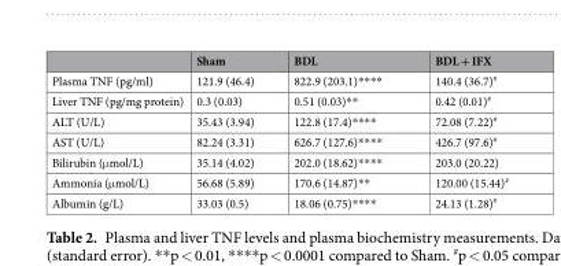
<table><thead><tr><td></td><td>Sham</td><td>BDL</td><td>BDL + IFX</td></tr></thead><tbody><tr><td>Plasma TNF (pg/ml)</td><td>121.9 (46.4)</td><td>822.9 (203.1)****</td><td>140.4 (36.7)<sup>#</sup></td></tr><tr><td>Liver TNF (pg/mg protein)</td><td>0.3 (0.03)</td><td>0.51 (0.03)**</td><td>0.42 (0.01)<sup>#</sup></td></tr><tr><td>ALT (U/L)</td><td>35.43 (3.94)</td><td>122.8 (17.4)****</td><td>72.08 (7.22)<sup>#</sup></td></tr><tr><td>AST (U/L)</td><td>82.24 (3.31)</td><td>626.7 (127.6)****</td><td>426.7 (97.6)<sup>#</sup></td></tr><tr><td>Bilirubin (μmol/L)</td><td>35.14 (4.02)</td><td>202.0 (18.62)****</td><td>203.0 (20.22)</td></tr><tr><td>Ammonia (μmol/L)</td><td>56.68 (5.89)</td><td>170.6 (14.87)**</td><td>120.00 (15.44)<sup>#</sup></td></tr><tr><td>Albumin (g/L)</td><td>33.03 (0.5)</td><td>18.06 (0.75)****</td><td>24.13 (1.28)<sup>#</sup></td></tr></tbody></table>